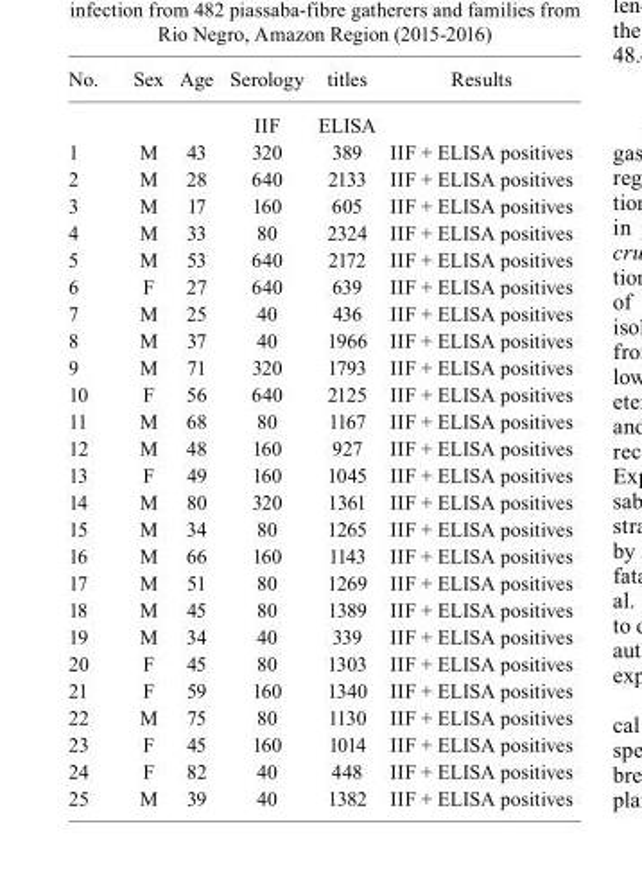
<table><thead><tr><td>No.</td><td>Sex</td><td>Age</td><td>Serology</td><td>titles</td><td>Results</td></tr></thead><tbody><tr><td></td><td></td><td></td><td>IIF</td><td>ELISA</td><td></td></tr><tr><td>1</td><td>M</td><td>43</td><td>320</td><td>389</td><td>IIF + ELISA positives</td></tr><tr><td>2</td><td>M</td><td>28</td><td>640</td><td>2133</td><td>IIF + ELISA positives</td></tr><tr><td>3</td><td>M</td><td>17</td><td>160</td><td>605</td><td>IIF + ELISA positives</td></tr><tr><td>4</td><td>M</td><td>33</td><td>80</td><td>2324</td><td>IIF + ELISA positives</td></tr><tr><td>5</td><td>M</td><td>53</td><td>640</td><td>2172</td><td>IIF + ELISA positives</td></tr><tr><td>6</td><td>F</td><td>27</td><td>640</td><td>639</td><td>IIF + ELISA positives</td></tr><tr><td>7</td><td>M</td><td>25</td><td>40</td><td>436</td><td>IIF + ELISA positives</td></tr><tr><td>8</td><td>M</td><td>37</td><td>40</td><td>1966</td><td>IIF + ELISA positives</td></tr><tr><td>9</td><td>M</td><td>71</td><td>320</td><td>1793</td><td>IIF + ELISA positives</td></tr><tr><td>10</td><td>F</td><td>56</td><td>640</td><td>2125</td><td>IIF + ELISA positives</td></tr><tr><td>11</td><td>M</td><td>68</td><td>80</td><td>1167</td><td>IIF + ELISA positives</td></tr><tr><td>12</td><td>M</td><td>48</td><td>160</td><td>927</td><td>IIF + ELISA positives</td></tr><tr><td>13</td><td>F</td><td>49</td><td>160</td><td>1045</td><td>IIF + ELISA positives</td></tr><tr><td>14</td><td>M</td><td>80</td><td>320</td><td>1361</td><td>IIF + ELISA positives</td></tr><tr><td>15</td><td>M</td><td>34</td><td>80</td><td>1265</td><td>IIF + ELISA positives</td></tr><tr><td>16</td><td>M</td><td>66</td><td>160</td><td>1143</td><td>IIF + ELISA positives</td></tr><tr><td>17</td><td>M</td><td>51</td><td>80</td><td>1269</td><td>IIF + ELISA positives</td></tr><tr><td>18</td><td>M</td><td>45</td><td>80</td><td>1389</td><td>IIF + ELISA positives</td></tr><tr><td>19</td><td>M</td><td>34</td><td>40</td><td>339</td><td>IIF + ELISA positives</td></tr><tr><td>20</td><td>F</td><td>45</td><td>80</td><td>1303</td><td>IIF + ELISA positives</td></tr><tr><td>21</td><td>F</td><td>59</td><td>160</td><td>1340</td><td>IIF + ELISA positives</td></tr><tr><td>22</td><td>M</td><td>75</td><td>80</td><td>1130</td><td>IIF + ELISA positives</td></tr><tr><td>23</td><td>F</td><td>45</td><td>160</td><td>1014</td><td>IIF + ELISA positives</td></tr><tr><td>24</td><td>F</td><td>82</td><td>40</td><td>448</td><td>IIF + ELISA positives</td></tr><tr><td>25</td><td>M</td><td>39</td><td>40</td><td>1382</td><td>IIF + ELISA positives</td></tr></tbody></table>